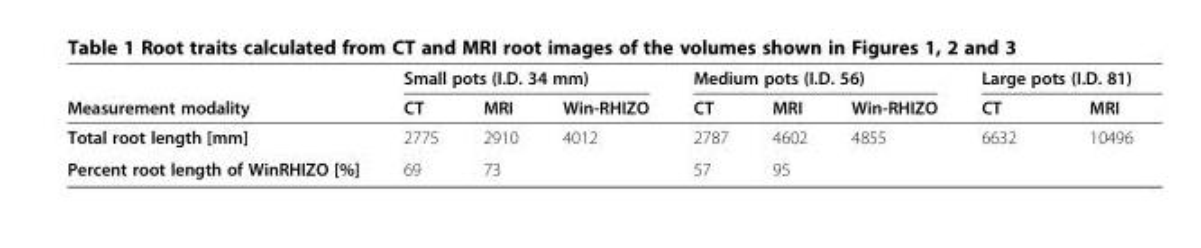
<table><thead><tr><td rowspan="2">Measurement modality</td><td colspan="3">Small pots (I.D. 34 mm)</td><td colspan="3">Medium pots (I.D. 56)</td><td colspan="2">Large pots (I.D. 81)</td></tr><tr><td>CT</td><td>MRI</td><td>Win-RHIZO</td><td>CT</td><td>MRI</td><td>Win-RHIZO</td><td>CT</td><td>MRI</td></tr></thead><tbody><tr><td>Total root length [mm]</td><td>2775</td><td>2910</td><td>4012</td><td>2787</td><td>4602</td><td>4855</td><td>6632</td><td>10496</td></tr><tr><td>Percent root length of WinRHIZO [%]</td><td>69</td><td>73</td><td></td><td>57</td><td>95</td><td></td><td></td><td></td></tr></tbody></table>